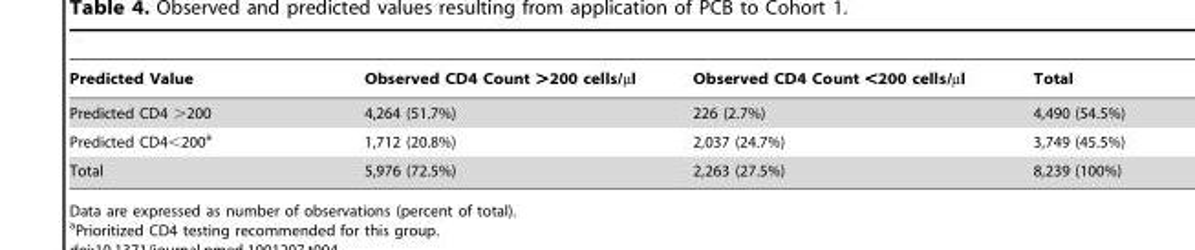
<table><thead><tr><td>Predicted Value</td><td>Observed CD4 Count &gt;200 cells/µl</td><td>Observed CD4 Count &lt;200 cells/µl</td><td>Total</td></tr></thead><tbody><tr><td>Predicted CD4 &gt;200</td><td>4,264 (51.7%)</td><td>226 (2.7%)</td><td>4,490 (54.5%)</td></tr><tr><td>Predicted CD4&lt;200<sup>a</sup></td><td>1,712 (20.8%)</td><td>2,037 (24.7%)</td><td>3,749 (45.5%)</td></tr><tr><td>Total</td><td>5,976 (72.5%)</td><td>2,263 (27.5%)</td><td>8,239 (100%)</td></tr></tbody></table>